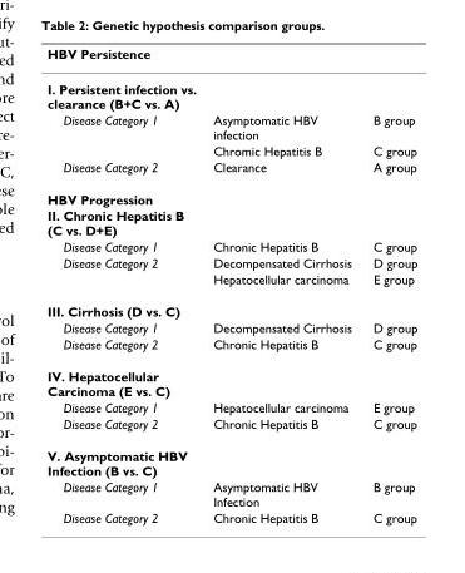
<table><thead><tr><td>HBV Persistence</td><td></td><td></td></tr></thead><tbody><tr><td colspan="3">I. Persistent infection vs. clearance (B+C vs. A)</td></tr><tr><td rowspan="2">Disease Category 1</td><td>Asymptomatic HBV infection</td><td>B group</td></tr><tr><td>Chromic Hepatitis B</td><td>C group</td></tr><tr><td>Disease Category 2</td><td>Clearance</td><td>A group</td></tr><tr><td colspan="3">HBV Progression</td></tr><tr><td colspan="3">II. Chronic Hepatitis B (C vs. D+E)</td></tr><tr><td>Disease Category 1</td><td>Chronic Hepatitis B</td><td>C group</td></tr><tr><td rowspan="2">Disease Category 2</td><td>Decompensated Cirrhosis</td><td>D group</td></tr><tr><td>Hepatocellular carcinoma</td><td>E group</td></tr><tr><td colspan="3">III. Cirrhosis (D vs. C)</td></tr><tr><td>Disease Category 1</td><td>Decompensated Cirrhosis</td><td>D group</td></tr><tr><td>Disease Category 2</td><td>Chronic Hepatitis B</td><td>C group</td></tr><tr><td colspan="3">IV. Hepatocellular Carcinoma (E vs. C)</td></tr><tr><td>Disease Category 1</td><td>Hepatocellular carcinoma</td><td>E group</td></tr><tr><td>Disease Category 2</td><td>Chronic Hepatitis B</td><td>C group</td></tr><tr><td colspan="3">V. Asymptomatic HBV Infection (B vs. C)</td></tr><tr><td>Disease Category 1</td><td>Asymptomatic HBV Infection</td><td>B group</td></tr><tr><td>Disease Category 2</td><td>Chronic Hepatitis B</td><td>C group</td></tr></tbody></table>